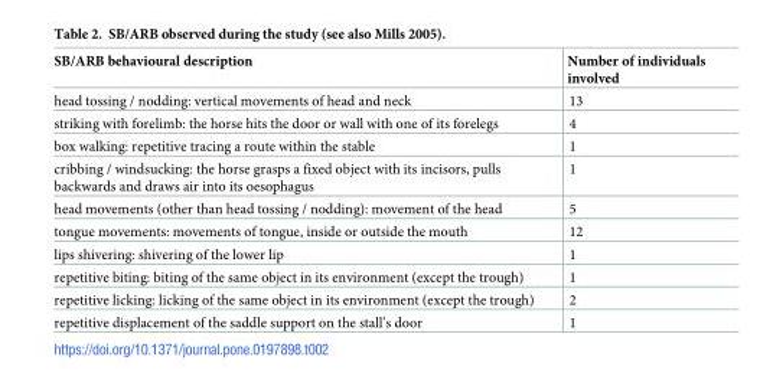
<table><thead><tr><td>SB/ARB behavioural description</td><td>Number of individuals involved</td></tr></thead><tbody><tr><td>head tossing / nodding: vertical movements of head and neck</td><td>13</td></tr><tr><td>striking with forelimb: the horse hits the door or wall with one of its forelegs</td><td>4</td></tr><tr><td>box walking: repetitive tracing a route within the stable</td><td>1</td></tr><tr><td>cribbing / windsucking: the horse grasps a fixed object with its incisors, pulls backwards and draws air into its oesophagus</td><td>1</td></tr><tr><td>head movements (other than head tossing / nodding): movement of the head</td><td>5</td></tr><tr><td>tongue movements: movements of tongue, inside or outside the mouth</td><td>12</td></tr><tr><td>lips shivering: shivering of the lower lip</td><td>1</td></tr><tr><td>repetitive biting: biting of the same object in its environment (except the trough)</td><td>1</td></tr><tr><td>repetitive licking: licking of the same object in its environment (except the trough)</td><td>2</td></tr><tr><td>repetitive displacement of the saddle support on the stall’s door</td><td>1</td></tr></tbody></table>